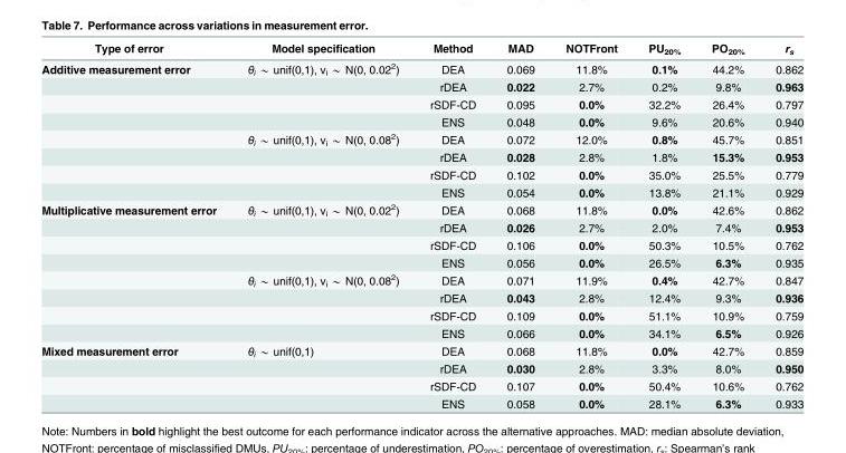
<table><thead><tr><td>Type of error</td><td>Model specification</td><td>Method</td><td>MAD</td><td>NOTFront</td><td>PU<sub>20%</sub></td><td>PO<sub>20%</sub></td><td>r<sub>s</sub></td></tr></thead><tbody><tr><td rowspan="8">Additive measurement error</td><td>θi * unif(0,1), vi * N(0, 0.022)</td><td>DEA</td><td>0.069</td><td>11.8%</td><td>0.1%</td><td>44.2%</td><td>0.862</td></tr><tr><td></td><td>rDEA</td><td>0.022</td><td>2.7%</td><td>0.2%</td><td>9.8%</td><td>0.963</td></tr><tr><td></td><td>rSDF-CD</td><td>0.095</td><td>0.0%</td><td>32.2%</td><td>26.4%</td><td>0.797</td></tr><tr><td></td><td>ENS</td><td>0.048</td><td>0.0%</td><td>9.6%</td><td>20.6%</td><td>0.940</td></tr><tr><td>θi * unif(0,1), vi * N(0, 0.082)</td><td>DEA</td><td>0.072</td><td>12.0%</td><td>0.8%</td><td>45.7%</td><td>0.851</td></tr><tr><td></td><td>rDEA</td><td>0.028</td><td>2.8%</td><td>1.8%</td><td>15.3%</td><td>0.953</td></tr><tr><td></td><td>rSDF-CD</td><td>0.102</td><td>0.0%</td><td>35.0%</td><td>25.5%</td><td>0.779</td></tr><tr><td></td><td>ENS</td><td>0.054</td><td>0.0%</td><td>13.8%</td><td>21.1%</td><td>0.929</td></tr><tr><td rowspan="8">Multiplicative measurement error</td><td>θi * unif(0,1), vi * N(0, 0.022)</td><td>DEA</td><td>0.068</td><td>11.8%</td><td>0.0%</td><td>42.6%</td><td>0.862</td></tr><tr><td></td><td>rDEA</td><td>0.026</td><td>2.7%</td><td>2.0%</td><td>7.4%</td><td>0.953</td></tr><tr><td></td><td>rSDF-CD</td><td>0.106</td><td>0.0%</td><td>50.3%</td><td>10.5%</td><td>0.762</td></tr><tr><td></td><td>ENS</td><td>0.056</td><td>0.0%</td><td>26.5%</td><td>6.3%</td><td>0.935</td></tr><tr><td>θi * unif(0,1), vi * N(0, 0.082)</td><td>DEA</td><td>0.071</td><td>11.9%</td><td>0.4%</td><td>42.7%</td><td>0.847</td></tr><tr><td></td><td>rDEA</td><td>0.043</td><td>2.8%</td><td>12.4%</td><td>9.3%</td><td>0.936</td></tr><tr><td></td><td>rSDF-CD</td><td>0.109</td><td>0.0%</td><td>51.1%</td><td>10.9%</td><td>0.759</td></tr><tr><td></td><td>ENS</td><td>0.066</td><td>0.0%</td><td>34.1%</td><td>6.5%</td><td>0.926</td></tr><tr><td rowspan="4">Mixed measurement error</td><td>θi * unif(0,1)</td><td>DEA</td><td>0.068</td><td>11.8%</td><td>0.0%</td><td>42.7%</td><td>0.859</td></tr><tr><td></td><td>rDEA</td><td>0.030</td><td>2.8%</td><td>3.3%</td><td>8.0%</td><td>0.950</td></tr><tr><td></td><td>rSDF-CD</td><td>0.107</td><td>0.0%</td><td>50.4%</td><td>10.6%</td><td>0.762</td></tr><tr><td></td><td>ENS</td><td>0.058</td><td>0.0%</td><td>28.1%</td><td>6.3%</td><td>0.933</td></tr></tbody></table>